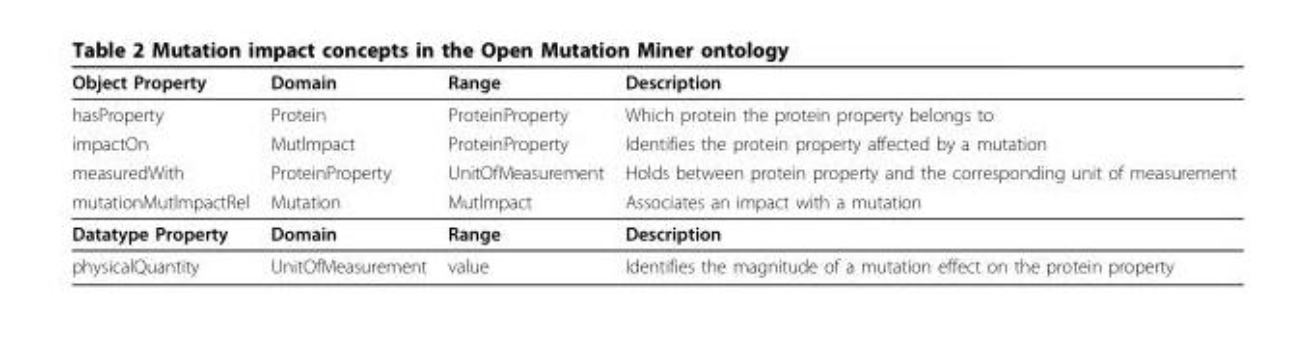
<table><thead><tr><td>Object Property</td><td>Domain</td><td>Range</td><td>Description</td></tr></thead><tbody><tr><td>hasProperty</td><td>Protein</td><td>ProteinProperty</td><td>Which protein the protein property belongs to</td></tr><tr><td>impactOn</td><td>Mutlmpact</td><td>ProteinProperty</td><td>Identifies the protein property affected by a mutation</td></tr><tr><td>measuredWith</td><td>ProteinProperty</td><td>UnitOfMeasurement</td><td>Holds between protein property and the corresponding unit of measurement</td></tr><tr><td>mutationMutlmpactRel</td><td>Mutation</td><td>Mutlmpact</td><td>Associates an impact with a mutation</td></tr><tr><td>Datatype Property</td><td>Domain</td><td>Range</td><td>Description</td></tr><tr><td>physicalQuantity</td><td>UnitOfMeasurement</td><td>value</td><td>Identifies the magnitude of a mutation effect on the protein property</td></tr></tbody></table>